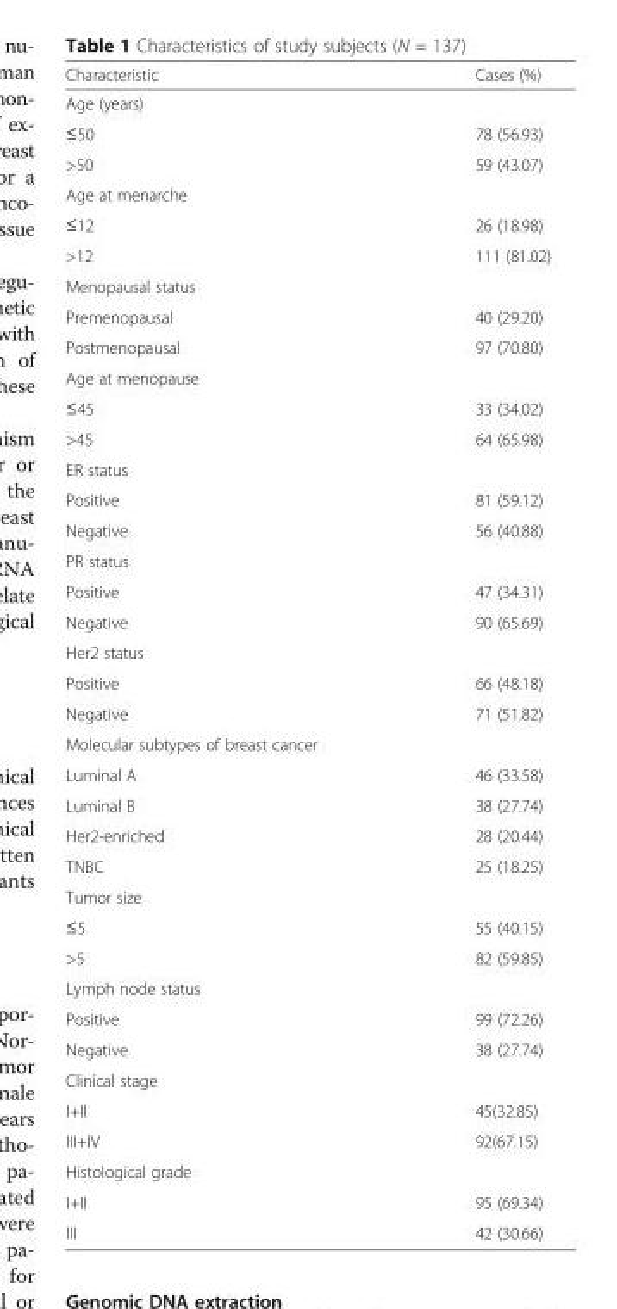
<table><thead><tr><td>Characteristic</td><td>Cases (%)</td></tr></thead><tbody><tr><td colspan="2">Age (years)</td></tr><tr><td>≤50</td><td>78 (56.93)</td></tr><tr><td>&gt;50</td><td>59 (43.07)</td></tr><tr><td colspan="2">Age at menarche</td></tr><tr><td>≤12</td><td>26 (18.98)</td></tr><tr><td>&gt;12</td><td>111 (81.02)</td></tr><tr><td colspan="2">Menopausal status</td></tr><tr><td>Premenopausal</td><td>40 (29.20)</td></tr><tr><td>Postmenopausal</td><td>97 (70.80)</td></tr><tr><td colspan="2">Age at menopause</td></tr><tr><td>≤45</td><td>33 (34.02)</td></tr><tr><td>&gt;45</td><td>64 (65.98)</td></tr><tr><td colspan="2">ER status</td></tr><tr><td>Positive</td><td>81 (59.12)</td></tr><tr><td>Negative</td><td>56 (40.88)</td></tr><tr><td colspan="2">PR status</td></tr><tr><td>Positive</td><td>47 (34.31)</td></tr><tr><td>Negative</td><td>90 (65.69)</td></tr><tr><td colspan="2">Her2 status</td></tr><tr><td>Positive</td><td>66 (48.18)</td></tr><tr><td>Negative</td><td>71 (51.82)</td></tr><tr><td colspan="2">Molecular subtypes of breast cancer</td></tr><tr><td>Luminal A</td><td>46 (33.58)</td></tr><tr><td>Luminal B</td><td>38 (27.74)</td></tr><tr><td>Her2-enriched</td><td>28 (20.44)</td></tr><tr><td>TNBC</td><td>25 (18.25)</td></tr><tr><td colspan="2">Tumor size</td></tr><tr><td>≤5</td><td>55 (40.15)</td></tr><tr><td>&gt;5</td><td>82 (59.85)</td></tr><tr><td colspan="2">Lymph node status</td></tr><tr><td>Positive</td><td>99 (72.26)</td></tr><tr><td>Negative</td><td>38 (27.74)</td></tr><tr><td colspan="2">Clinical stage</td></tr><tr><td>I+II</td><td>45(32.85)</td></tr><tr><td>III+IV</td><td>92(67.15)</td></tr><tr><td colspan="2">Histological grade</td></tr><tr><td>I+II</td><td>95 (69.34)</td></tr><tr><td>III</td><td>42 (30.66)</td></tr></tbody></table>